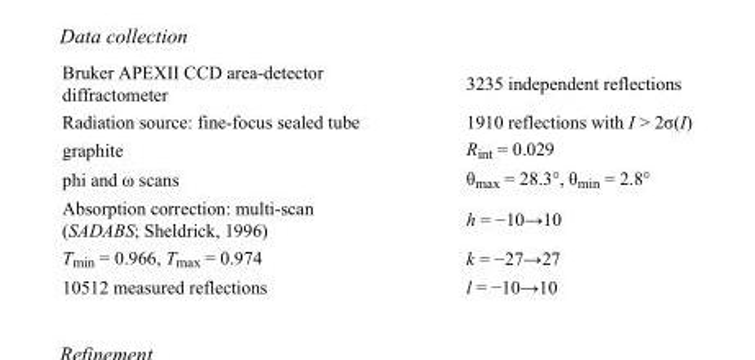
<table><tbody><tr><td>Bruker APEXII CCD area-detector diffractometer</td><td>3235 independent reflections</td></tr><tr><td>Radiation source: fine-focus sealed tube</td><td>1910 reflections with I &gt; 2σ(I)</td></tr><tr><td>graphite</td><td>R<sub>int</sub> = 0.029</td></tr><tr><td>phi and ω scans</td><td>θ<sub>max</sub> = 28.3°, θ<sub>min</sub> = 2.8°</td></tr><tr><td>Absorption correction: multi-scan (SADABS; Sheldrick, 1996)</td><td>h = −10→10</td></tr><tr><td>T<sub>min</sub> = 0.966, T<sub>max</sub> = 0.974</td><td>k = −27→27</td></tr><tr><td>10512 measured reflections</td><td>l = −10→10</td></tr></tbody></table>